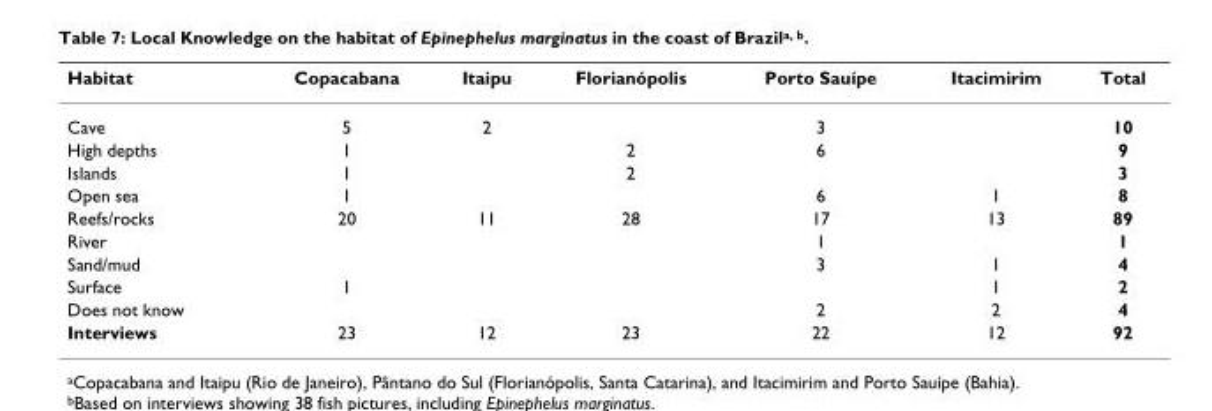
<table><thead><tr><td>Habitat</td><td>Copacabana</td><td>Itaipu</td><td>Florianópolis</td><td>Porto Sauípe</td><td>Itacimirim</td><td>Total</td></tr></thead><tbody><tr><td>Cave</td><td>5</td><td>2</td><td></td><td>3</td><td></td><td>10</td></tr><tr><td>High depths</td><td>1</td><td></td><td>2</td><td>6</td><td></td><td>9</td></tr><tr><td>Islands</td><td>1</td><td></td><td>2</td><td></td><td></td><td>3</td></tr><tr><td>Open sea</td><td>1</td><td></td><td></td><td>6</td><td>1</td><td>8</td></tr><tr><td>Reefs/rocks</td><td>20</td><td>11</td><td>28</td><td>17</td><td>13</td><td>89</td></tr><tr><td>River</td><td></td><td></td><td></td><td>1</td><td></td><td>1</td></tr><tr><td>Sand/mud</td><td></td><td></td><td></td><td>3</td><td>1</td><td>4</td></tr><tr><td>Surface</td><td>1</td><td></td><td></td><td></td><td>1</td><td>2</td></tr><tr><td>Does not know</td><td></td><td></td><td></td><td>2</td><td>2</td><td>4</td></tr><tr><td>Interviews</td><td>23</td><td>12</td><td>23</td><td>22</td><td>12</td><td>92</td></tr></tbody></table>